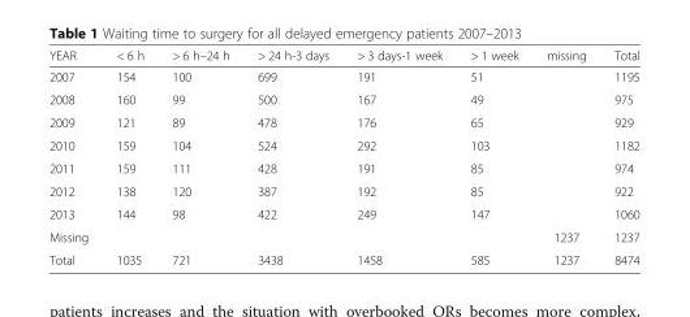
<table><thead><tr><td>YEAR</td><td>&lt; 6 h</td><td>&gt; 6 h–24 h</td><td>&gt; 24 h-3 days</td><td>&gt; 3 days-1 week</td><td>&gt; 1 week</td><td>missing</td><td>Total</td></tr></thead><tbody><tr><td>2007</td><td>154</td><td>100</td><td>699</td><td>191</td><td>51</td><td></td><td>1195</td></tr><tr><td>2008</td><td>160</td><td>99</td><td>500</td><td>167</td><td>49</td><td></td><td>975</td></tr><tr><td>2009</td><td>121</td><td>89</td><td>478</td><td>176</td><td>65</td><td></td><td>929</td></tr><tr><td>2010</td><td>159</td><td>104</td><td>524</td><td>292</td><td>103</td><td></td><td>1182</td></tr><tr><td>2011</td><td>159</td><td>111</td><td>428</td><td>191</td><td>85</td><td></td><td>974</td></tr><tr><td>2012</td><td>138</td><td>120</td><td>387</td><td>192</td><td>85</td><td></td><td>922</td></tr><tr><td>2013</td><td>144</td><td>98</td><td>422</td><td>249</td><td>147</td><td></td><td>1060</td></tr><tr><td>Missing</td><td></td><td></td><td></td><td></td><td></td><td>1237</td><td>1237</td></tr><tr><td>Total</td><td>1035</td><td>721</td><td>3438</td><td>1458</td><td>585</td><td>1237</td><td>8474</td></tr></tbody></table>